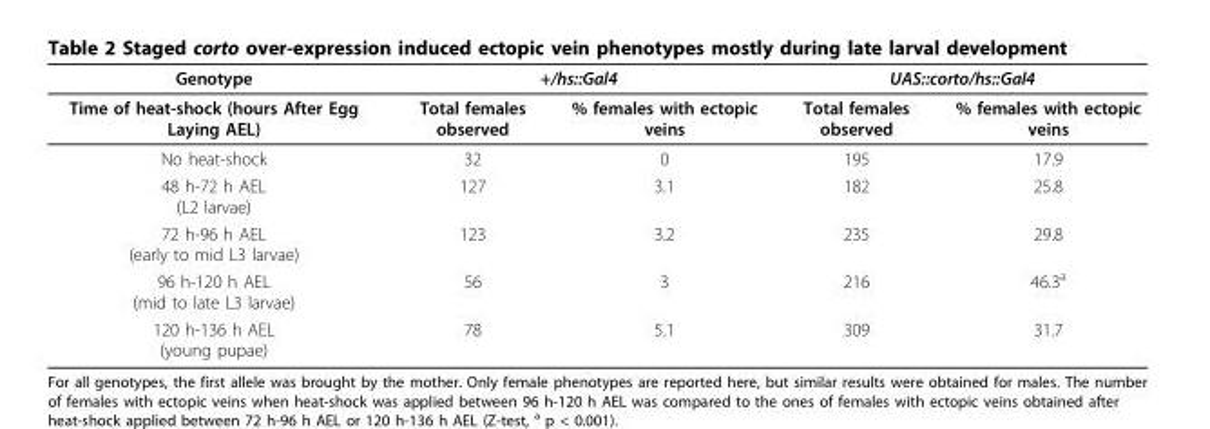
<table><thead><tr><td rowspan="2">Genotype Time of heat-shock (hours After Egg Laying AEL)</td><td colspan="2">+/hs::Gal4</td><td colspan="2">UAS::corto/hs::Gal4</td></tr><tr><td>Total females observed</td><td>% females with ectopic veins</td><td>Total females observed</td><td>% females with ectopic veins</td></tr></thead><tbody><tr><td>No heat-shock</td><td>32</td><td>0</td><td>195</td><td>17.9</td></tr><tr><td>48 h-72 h AEL (L2 larvae)</td><td>127</td><td>3.1</td><td>182</td><td>25.8</td></tr><tr><td>72 h-96 h AEL (early to mid L3 larvae)</td><td>123</td><td>3.2</td><td>235</td><td>29.8</td></tr><tr><td>96 h-120 h AEL (mid to late L3 larvae)</td><td>56</td><td>3</td><td>216</td><td>46.3<sup>a</sup></td></tr><tr><td>120 h-136 h AEL (young pupae)</td><td>78</td><td>5.1</td><td>309</td><td>31.7</td></tr></tbody></table>